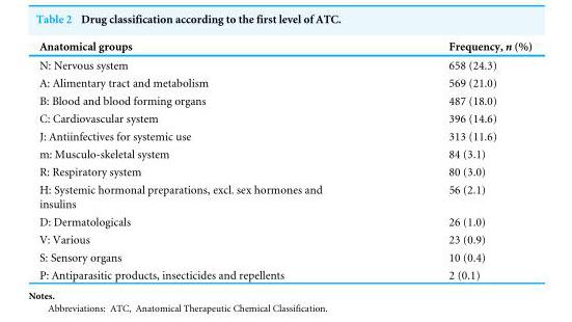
<table><thead><tr><td>Anatomical groups</td><td>Frequency, n (%)</td></tr></thead><tbody><tr><td>N: Nervous system</td><td>658 (24.3)</td></tr><tr><td>A: Alimentary tract and metabolism</td><td>569 (21.0)</td></tr><tr><td>B: Blood and blood forming organs</td><td>487 (18.0)</td></tr><tr><td>C: Cardiovascular system</td><td>396 (14.6)</td></tr><tr><td>J: Antiinfectives for systemic use</td><td>313 (11.6)</td></tr><tr><td>m: Musculo-skeletal system</td><td>84 (3.1)</td></tr><tr><td>R: Respiratory system</td><td>80 (3.0)</td></tr><tr><td>H: Systemic hormonal preparations, excl. sex hormones and insulins</td><td>56 (2.1)</td></tr><tr><td>D: Dermatologicals</td><td>26 (1.0)</td></tr><tr><td>V: Various</td><td>23 (0.9)</td></tr><tr><td>S: Sensory organs</td><td>10 (0.4)</td></tr><tr><td>P: Antiparasitic products, insecticides and repellents</td><td>2 (0.1)</td></tr></tbody></table>